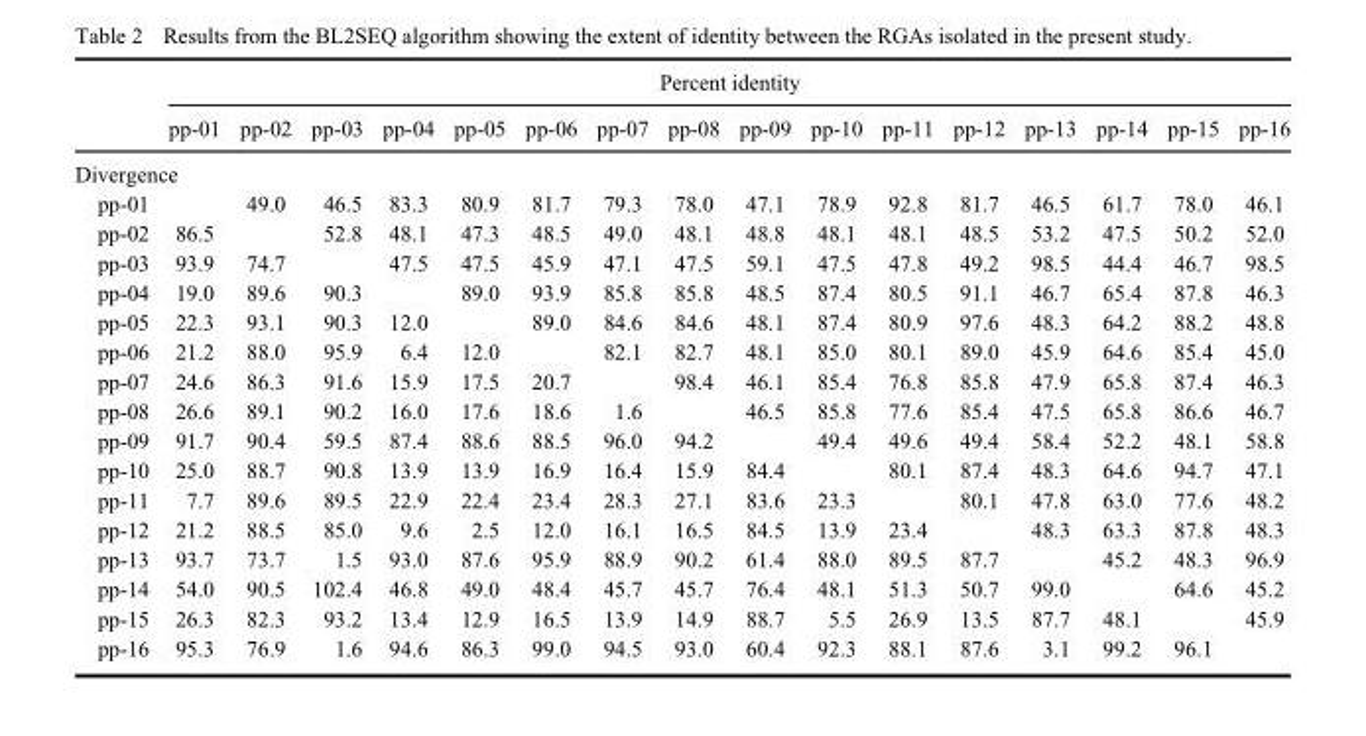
<table><thead><tr><td rowspan="2"></td><td colspan="16">Percent identity</td></tr><tr><td>pp-01</td><td>pp-02</td><td>pp-03</td><td>pp-04</td><td>pp-05</td><td>pp-06</td><td>pp-07</td><td>pp-08</td><td>pp-09</td><td>pp-10</td><td>pp-11</td><td>pp-12</td><td>pp-13</td><td>pp-14</td><td>pp-15</td><td>pp-16</td></tr></thead><tbody><tr><td colspan="17">Divergence</td></tr><tr><td>pp-01</td><td></td><td>49.0</td><td>46.5</td><td>83.3</td><td>80.9</td><td>81.7</td><td>79.3</td><td>78.0</td><td>47.1</td><td>78.9</td><td>92.8</td><td>81.7</td><td>46.5</td><td>61.7</td><td>78.0</td><td>46.1</td></tr><tr><td>pp-02</td><td>86.5</td><td></td><td>52.8</td><td>48.1</td><td>47.3</td><td>48.5</td><td>49.0</td><td>48.1</td><td>48.8</td><td>48.1</td><td>48.1</td><td>48.5</td><td>53.2</td><td>47.5</td><td>50.2</td><td>52.0</td></tr><tr><td>pp-03</td><td>93.9</td><td>74.7</td><td></td><td>47.5</td><td>47.5</td><td>45.9</td><td>47.1</td><td>47.5</td><td>59.1</td><td>47.5</td><td>47.8</td><td>49.2</td><td>98.5</td><td>44.4</td><td>46.7</td><td>98.5</td></tr><tr><td>pp-04</td><td>19.0</td><td>89.6</td><td>90.3</td><td></td><td>89.0</td><td>93.9</td><td>85.8</td><td>85.8</td><td>48.5</td><td>87.4</td><td>80.5</td><td>91.1</td><td>46.7</td><td>65.4</td><td>87.8</td><td>46.3</td></tr><tr><td>pp-05</td><td>22.3</td><td>93.1</td><td>90.3</td><td>12.0</td><td></td><td>89.0</td><td>84.6</td><td>84.6</td><td>48.1</td><td>87.4</td><td>80.9</td><td>97.6</td><td>48.3</td><td>64.2</td><td>88.2</td><td>48.8</td></tr><tr><td>pp-06</td><td>21.2</td><td>88.0</td><td>95.9</td><td>6.4</td><td>12.0</td><td></td><td>82.1</td><td>82.7</td><td>48.1</td><td>85.0</td><td>80.1</td><td>89.0</td><td>45.9</td><td>64.6</td><td>85.4</td><td>45.0</td></tr><tr><td>pp-07</td><td>24.6</td><td>86.3</td><td>91.6</td><td>15.9</td><td>17.5</td><td>20.7</td><td></td><td>98.4</td><td>46.1</td><td>85.4</td><td>76.8</td><td>85.8</td><td>47.9</td><td>65.8</td><td>87.4</td><td>46.3</td></tr><tr><td>pp-08</td><td>26.6</td><td>89.1</td><td>90.2</td><td>16.0</td><td>17.6</td><td>18.6</td><td>1.6</td><td></td><td>46.5</td><td>85.8</td><td>77.6</td><td>85.4</td><td>47.5</td><td>65.8</td><td>86.6</td><td>46.7</td></tr><tr><td>pp-09</td><td>91.7</td><td>90.4</td><td>59.5</td><td>87.4</td><td>88.6</td><td>88.5</td><td>96.0</td><td>94.2</td><td></td><td>49.4</td><td>49.6</td><td>49.4</td><td>58.4</td><td>52.2</td><td>48.1</td><td>58.8</td></tr><tr><td>pp-10</td><td>25.0</td><td>88.7</td><td>90.8</td><td>13.9</td><td>13.9</td><td>16.9</td><td>16.4</td><td>15.9</td><td>84.4</td><td></td><td>80.1</td><td>87.4</td><td>48.3</td><td>64.6</td><td>94.7</td><td>47.1</td></tr><tr><td>pp-11</td><td>7.7</td><td>89.6</td><td>89.5</td><td>22.9</td><td>22.4</td><td>23.4</td><td>28.3</td><td>27.1</td><td>83.6</td><td>23.3</td><td></td><td>80.1</td><td>47.8</td><td>63.0</td><td>77.6</td><td>48.2</td></tr><tr><td>pp-12</td><td>21.2</td><td>88.5</td><td>85.0</td><td>9.6</td><td>2.5</td><td>12.0</td><td>16.1</td><td>16.5</td><td>84.5</td><td>13.9</td><td>23.4</td><td></td><td>48.3</td><td>63.3</td><td>87.8</td><td>48.3</td></tr><tr><td>pp-13</td><td>93.7</td><td>73.7</td><td>1.5</td><td>93.0</td><td>87.6</td><td>95.9</td><td>88.9</td><td>90.2</td><td>61.4</td><td>88.0</td><td>89.5</td><td>87.7</td><td></td><td>45.2</td><td>48.3</td><td>96.9</td></tr><tr><td>pp-14</td><td>54.0</td><td>90.5</td><td>102.4</td><td>46.8</td><td>49.0</td><td>48.4</td><td>45.7</td><td>45.7</td><td>76.4</td><td>48.1</td><td>51.3</td><td>50.7</td><td>99.0</td><td></td><td>64.6</td><td>45.2</td></tr><tr><td>pp-15</td><td>26.3</td><td>82.3</td><td>93.2</td><td>13.4</td><td>12.9</td><td>16.5</td><td>13.9</td><td>14.9</td><td>88.7</td><td>5.5</td><td>26.9</td><td>13.5</td><td>87.7</td><td>48.1</td><td></td><td>45.9</td></tr><tr><td>pp-16</td><td>95.3</td><td>76.9</td><td>1.6</td><td>94.6</td><td>86.3</td><td>99.0</td><td>94.5</td><td>93.0</td><td>60.4</td><td>92.3</td><td>88.1</td><td>87.6</td><td>3.1</td><td>99.2</td><td>96.1</td><td></td></tr></tbody></table>